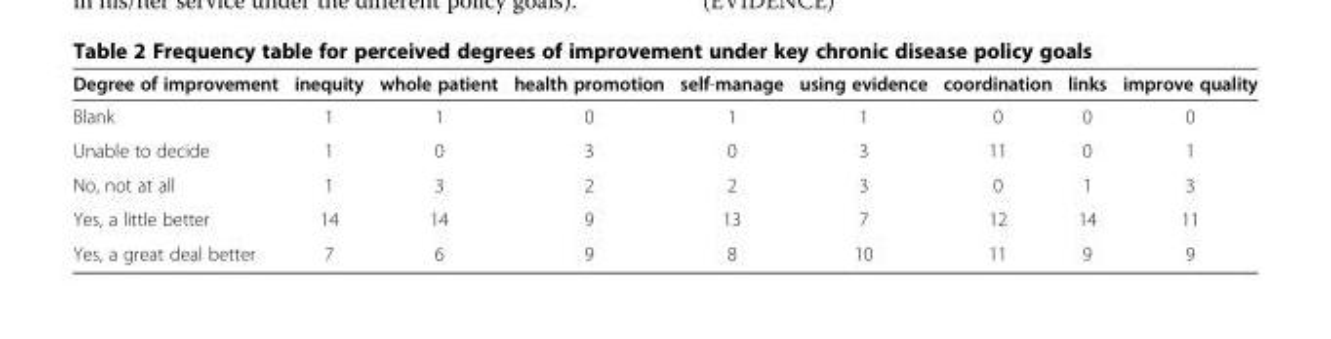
<table><thead><tr><td>Degree of improvement</td><td>inequity</td><td>whole patient</td><td>health promotion</td><td>self-manage</td><td>using evidence</td><td>coordination</td><td>links</td><td>improve quality</td></tr></thead><tbody><tr><td>Blank</td><td>1</td><td>1</td><td>0</td><td>1</td><td>1</td><td>0</td><td>0</td><td>0</td></tr><tr><td>Unable to decide</td><td>1</td><td>0</td><td>3</td><td>0</td><td>3</td><td>11</td><td>0</td><td>1</td></tr><tr><td>No, not at all</td><td>1</td><td>3</td><td>2</td><td>2</td><td>3</td><td>0</td><td>1</td><td>3</td></tr><tr><td>Yes, a little better</td><td>14</td><td>14</td><td>9</td><td>13</td><td>7</td><td>12</td><td>14</td><td>11</td></tr><tr><td>Yes, a great deal better</td><td>7</td><td>6</td><td>9</td><td>8</td><td>10</td><td>11</td><td>9</td><td>9</td></tr></tbody></table>